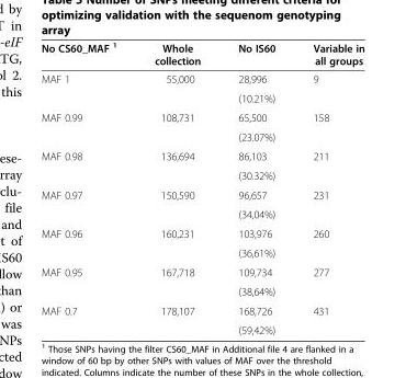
<table><thead><tr><td>No CS60_MAF <sup>1</sup></td><td>Whole collection</td><td>No IS60</td><td>Variable in all groups</td></tr></thead><tbody><tr><td rowspan="2">MAF 1</td><td>55,000</td><td>28,996</td><td>9</td></tr><tr><td></td><td>(10.21%)</td><td></td></tr><tr><td rowspan="2">MAF 0.99</td><td>108,731</td><td>65,500</td><td>158</td></tr><tr><td></td><td>(23.07%)</td><td></td></tr><tr><td rowspan="2">MAF 0.98</td><td>136,694</td><td>86,103</td><td>211</td></tr><tr><td></td><td>(30.32%)</td><td></td></tr><tr><td rowspan="2">MAF 0.97</td><td>150,590</td><td>96,657</td><td>231</td></tr><tr><td></td><td>(34,04%)</td><td></td></tr><tr><td rowspan="2">MAF 0.96</td><td>160,231</td><td>103,976</td><td>260</td></tr><tr><td></td><td>(36,61%)</td><td></td></tr><tr><td rowspan="2">MAF 0.95</td><td>167,718</td><td>109,734</td><td>277</td></tr><tr><td></td><td>(38,64%)</td><td></td></tr><tr><td rowspan="2">MAF 0.7</td><td>178,107</td><td>168,726</td><td>431</td></tr><tr><td></td><td>(59,42%)</td><td></td></tr></tbody></table>